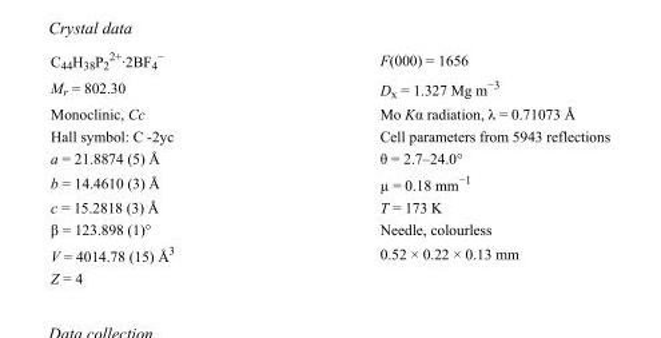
<table><tbody><tr><td>C<sub>44</sub>H<sub>38</sub>P<sub>2</sub> <sup>2+</sup>·2BF<sub>4</sub> <sup>−</sup></td><td>F(000) = 1656</td></tr><tr><td>M<sub>r</sub> = 802.30</td><td>D<sub>x</sub> = 1.327 Mg m<sup>−3</sup></td></tr><tr><td>Monoclinic, Cc</td><td>Mo Kα radiation, λ = 0.71073 Å</td></tr><tr><td>Hall symbol: C -2yc</td><td>Cell parameters from 5943 reflections</td></tr><tr><td>a = 21.8874 (5) Å</td><td>θ = 2.7–24.0°</td></tr><tr><td>b = 14.4610 (3) Å</td><td>µ = 0.18 mm<sup>−1</sup></td></tr><tr><td>c = 15.2818 (3) Å</td><td>T = 173 K</td></tr><tr><td>β = 123.898 (1)°</td><td>Needle, colourless</td></tr><tr><td>V = 4014.78 (15) Å<sup>3</sup></td><td>0.52 × 0.22 × 0.13 mm</td></tr><tr><td>Z = 4</td><td></td></tr></tbody></table>